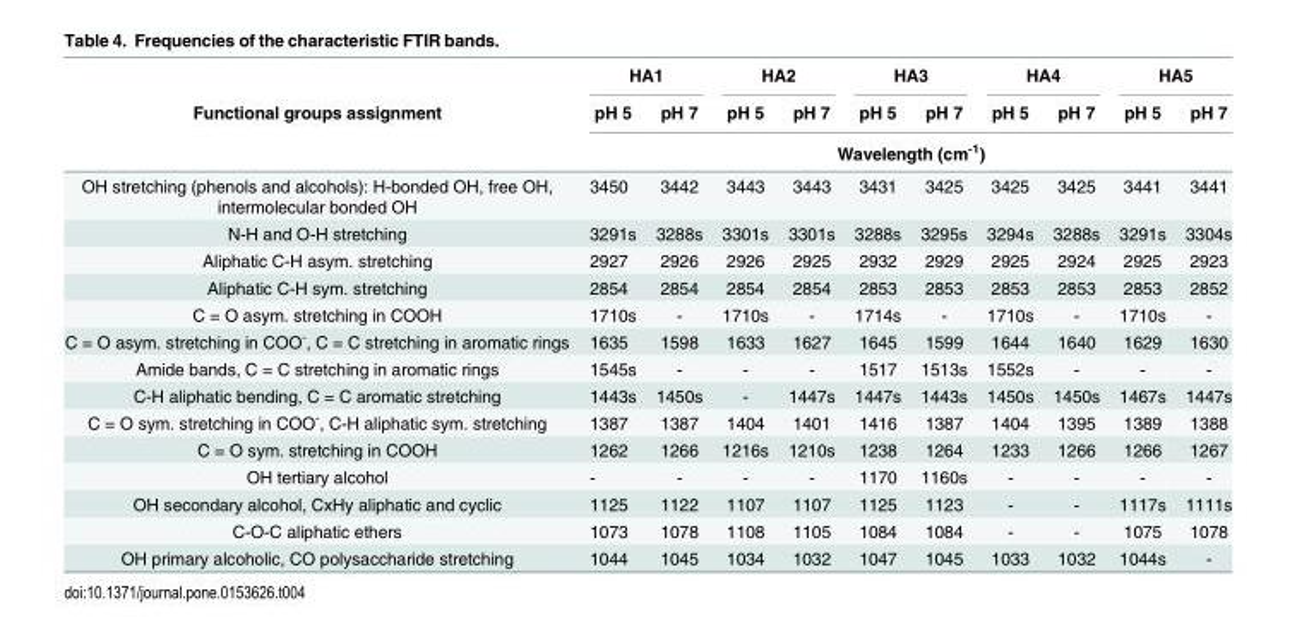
<table><thead><tr><td rowspan="3">Functional groups assignment</td><td colspan="2">HA1</td><td colspan="2">HA2</td><td colspan="2">HA3</td><td colspan="2">HA4</td><td colspan="2">HA5</td></tr><tr><td>pH 5</td><td>pH 7</td><td>pH 5</td><td>pH 7</td><td>pH 5</td><td>pH 7</td><td>pH 5</td><td>pH 7</td><td>pH 5</td><td>pH 7</td></tr><tr><td colspan="10">Wavelength (cm<sup>-1</sup>)</td></tr></thead><tbody><tr><td>OH stretching (phenols and alcohols): H-bonded OH, free OH, intermolecular bonded OH</td><td>3450</td><td>3442</td><td>3443</td><td>3443</td><td>3431</td><td>3425</td><td>3425</td><td>3425</td><td>3441</td><td>3441</td></tr><tr><td>N-H and O-H stretching</td><td>3291s</td><td>3288s</td><td>3301s</td><td>3301s</td><td>3288s</td><td>3295s</td><td>3294s</td><td>3288s</td><td>3291s</td><td>3304s</td></tr><tr><td>Aliphatic C-H asym. stretching</td><td>2927</td><td>2926</td><td>2926</td><td>2925</td><td>2932</td><td>2929</td><td>2925</td><td>2924</td><td>2925</td><td>2923</td></tr><tr><td>Aliphatic C-H sym. stretching</td><td>2854</td><td>2854</td><td>2854</td><td>2854</td><td>2853</td><td>2853</td><td>2853</td><td>2853</td><td>2853</td><td>2852</td></tr><tr><td>C = O asym. stretching in COOH</td><td>1710s</td><td>-</td><td>1710s</td><td>-</td><td>1714s</td><td>-</td><td>1710s</td><td>-</td><td>1710s</td><td>-</td></tr><tr><td>C = O asym. stretching in COO<sup>-</sup>, C = C stretching in aromatic rings</td><td>1635</td><td>1598</td><td>1633</td><td>1627</td><td>1645</td><td>1599</td><td>1644</td><td>1640</td><td>1629</td><td>1630</td></tr><tr><td>Amide bands, C = C stretching in aromatic rings</td><td>1545s</td><td>-</td><td>-</td><td>-</td><td>1517</td><td>1513s</td><td>1552s</td><td>-</td><td>-</td><td>-</td></tr><tr><td>C-H aliphatic bending, C = C aromatic stretching</td><td>1443s</td><td>1450s</td><td>-</td><td>1447s</td><td>1447s</td><td>1443s</td><td>1450s</td><td>1450s</td><td>1467s</td><td>1447s</td></tr><tr><td>C = O sym. stretching in COO<sup>-</sup>, C-H aliphatic sym. stretching</td><td>1387</td><td>1387</td><td>1404</td><td>1401</td><td>1416</td><td>1387</td><td>1404</td><td>1395</td><td>1389</td><td>1388</td></tr><tr><td>C = O sym. stretching in COOH</td><td>1262</td><td>1266</td><td>1216s</td><td>1210s</td><td>1238</td><td>1264</td><td>1233</td><td>1266</td><td>1266</td><td>1267</td></tr><tr><td>OH tertiary alcohol</td><td>-</td><td>-</td><td>-</td><td>-</td><td>1170</td><td>1160s</td><td>-</td><td>-</td><td>-</td><td>-</td></tr><tr><td>OH secondary alcohol, CxHy aliphatic and cyclic</td><td>1125</td><td>1122</td><td>1107</td><td>1107</td><td>1125</td><td>1123</td><td>-</td><td>-</td><td>1117s</td><td>1111s</td></tr><tr><td>C-O-C aliphatic ethers</td><td>1073</td><td>1078</td><td>1108</td><td>1105</td><td>1084</td><td>1084</td><td>-</td><td>-</td><td>1075</td><td>1078</td></tr><tr><td>OH primary alcoholic, CO polysaccharide stretching</td><td>1044</td><td>1045</td><td>1034</td><td>1032</td><td>1047</td><td>1045</td><td>1033</td><td>1032</td><td>1044s</td><td>-</td></tr></tbody></table>